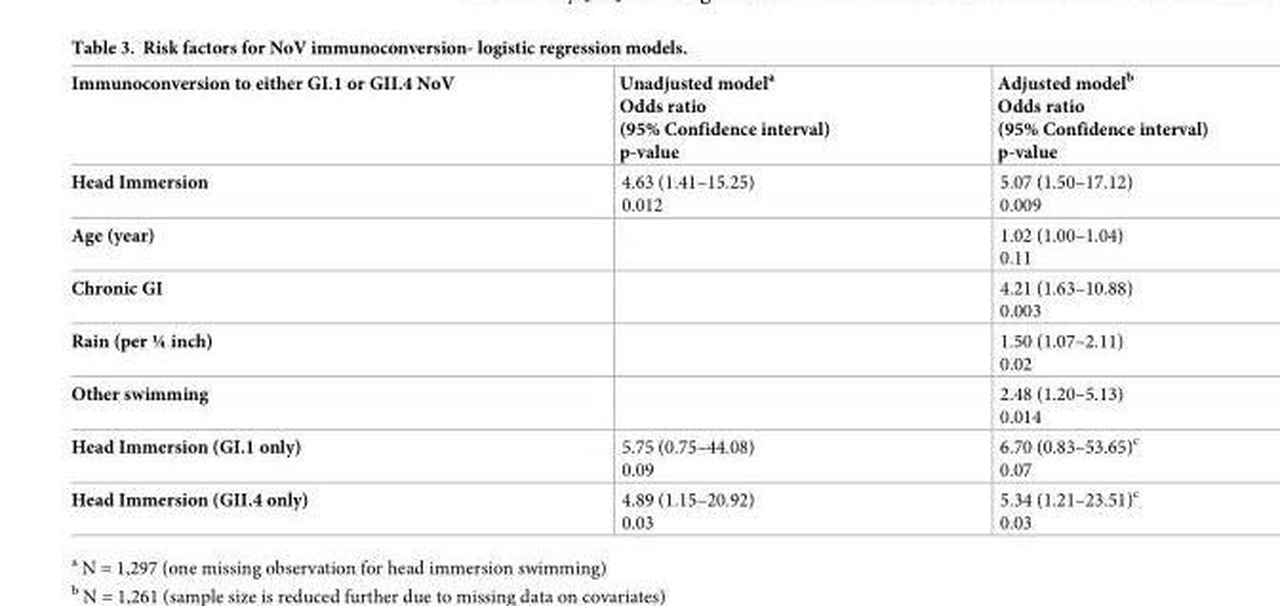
<table><thead><tr><td>Immunoconversion to either GI.1 or GII.4 NoV</td><td>Unadjusted model<sup>a</sup> Odds ratio (95% Confidence interval) p-value</td><td>Adjusted model<sup>b</sup> Odds ratio (95% Confidence interval) p-value</td></tr></thead><tbody><tr><td>Head Immersion</td><td>4.63 (1.41–15.25) 0.012</td><td>5.07 (1.50–17.12) 0.009</td></tr><tr><td>Age (year)</td><td></td><td>1.02 (1.00–1.04) 0.11</td></tr><tr><td>Chronic GI</td><td></td><td>4.21 (1.63–10.88) 0.003</td></tr><tr><td>Rain (per ¼ inch)</td><td></td><td>1.50 (1.07–2.11) 0.02</td></tr><tr><td>Other swimming</td><td></td><td>2.48 (1.20–5.13) 0.014</td></tr><tr><td>Head Immersion (GI.1 only)</td><td>5.75 (0.75–44.08) 0.09</td><td>6.70 (0.83–53.65)<sup>c</sup> 0.07</td></tr><tr><td>Head Immersion (GII.4 only)</td><td>4.89 (1.15–20.92) 0.03</td><td>5.34 (1.21–23.51)<sup>c</sup> 0.03</td></tr></tbody></table>